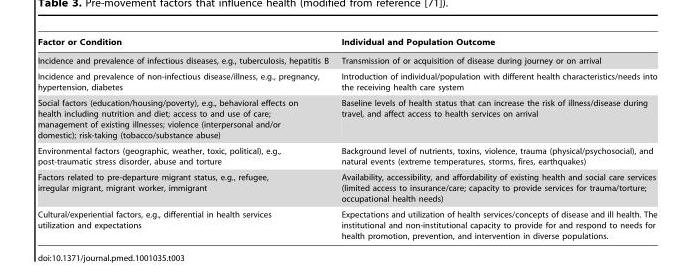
<table><thead><tr><td>Factor or Condition</td><td>Individual and Population Outcome</td></tr></thead><tbody><tr><td>Incidence and prevalence of infectious diseases, e.g., tuberculosis, hepatitis B</td><td>Transmission of or acquisition of disease during journey or on arrival</td></tr><tr><td>Incidence and prevalence of non-infectious disease/illness, e.g., pregnancy, hypertension, diabetes</td><td>Introduction of individual/population with different health characteristics/needs into the receiving health care system</td></tr><tr><td>Social factors (education/housing/poverty), e.g., behavioral effects on health including nutrition and diet; access to and use of care; management of existing illnesses; violence (interpersonal and/or domestic); risk-taking (tobacco/substance abuse)</td><td>Baseline levels of health status that can increase the risk of illness/disease during travel, and affect access to health services on arrival</td></tr><tr><td>Environmental factors (geographic, weather, toxic, political), e.g., post-traumatic stress disorder, abuse and torture</td><td>Background level of nutrients, toxins, violence, trauma (physical/psychosocial), and natural events (extreme temperatures, storms, fires, earthquakes)</td></tr><tr><td>Factors related to pre-departure migrant status, e.g., refugee, irregular migrant, migrant worker, immigrant</td><td>Availability, accessibility, and affordability of existing health and social care services (limited access to insurance/care; capacity to provide services for trauma/torture; occupational health needs)</td></tr><tr><td>Cultural/experiential factors, e.g., differential in health services utilization and expectations</td><td>Expectations and utilization of health services/concepts of disease and ill health. The institutional and non-institutional capacity to provide for and respond to needs for health promotion, prevention, and intervention in diverse populations.</td></tr></tbody></table>